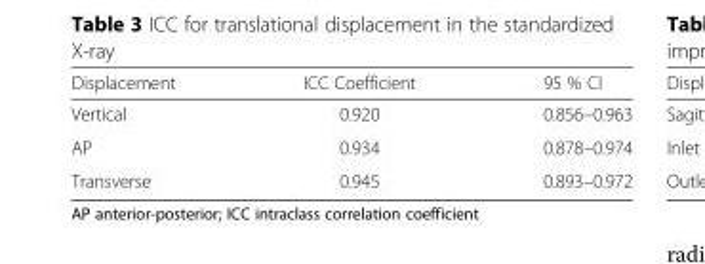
<table><thead><tr><td>Displacement</td><td>ICC Coefficient</td><td>95 % CI</td></tr></thead><tbody><tr><td>Vertical</td><td>0.920</td><td>0.856–0.963</td></tr><tr><td>AP</td><td>0.934</td><td>0.878–0.974</td></tr><tr><td>Transverse</td><td>0.945</td><td>0.893–0.972</td></tr></tbody></table>